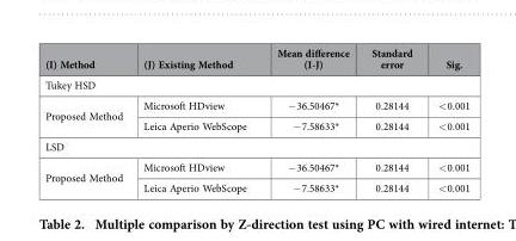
<table><thead><tr><td>(I) Method</td><td>(J) Existing Method</td><td>Mean difference (I-J)</td><td>Standard error</td><td>Sig.</td></tr></thead><tbody><tr><td colspan="5">Tukey HSD</td></tr><tr><td rowspan="2">Proposed Method</td><td>Microsoft HDview</td><td>− 36.50467*</td><td>0.28144</td><td>&lt; 0.001</td></tr><tr><td>Leica Aperio WebScope</td><td>− 7.58633*</td><td>0.28144</td><td>&lt; 0.001</td></tr><tr><td colspan="5">LSD</td></tr><tr><td rowspan="2">Proposed Method</td><td>Microsoft HDview</td><td>− 36.50467*</td><td>0.28144</td><td>&lt; 0.001</td></tr><tr><td>Leica Aperio WebScope</td><td>− 7.58633*</td><td>0.28144</td><td>&lt; 0.001</td></tr></tbody></table>